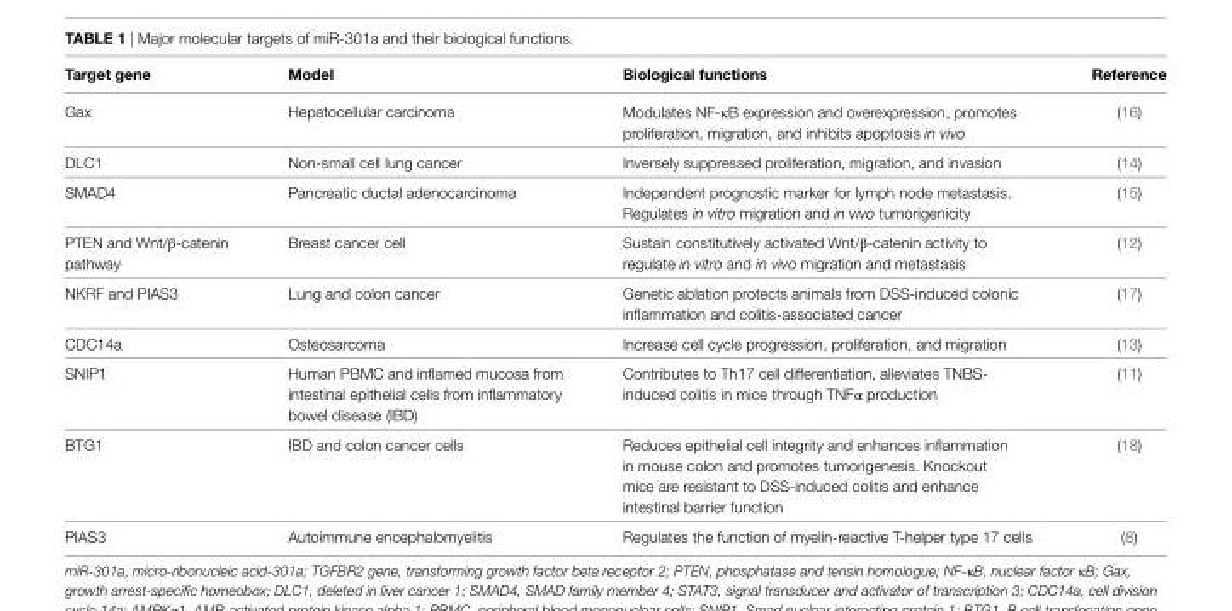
<table><thead><tr><td>Target gene</td><td>Model</td><td>Biological functions</td><td>Reference</td></tr></thead><tbody><tr><td>Gax</td><td>Hepatocellular carcinoma</td><td>Modulates NF-κB expression and overexpression, promotes proliferation, migration, and inhibits apoptosis in vivo</td><td>(16)</td></tr><tr><td>DLC1</td><td>Non-small cell lung cancer</td><td>Inversely suppressed proliferation, migration, and invasion</td><td>(14)</td></tr><tr><td>SMAD4</td><td>Pancreatic ductal adenocarcinoma</td><td>Independent prognostic marker for lymph node metastasis. Regulates in vitro migration and in vivo tumorigenicity</td><td>(15)</td></tr><tr><td>PTEN and Wnt/β-catenin pathway</td><td>Breast cancer cell</td><td>Sustain constitutively activated Wnt/β-catenin activity to regulate in vitro and in vivo migration and metastasis</td><td>(12)</td></tr><tr><td>NKRF and PIAS3</td><td>Lung and colon cancer</td><td>Genetic ablation protects animals from DSS-induced colonic inflammation and colitis-associated cancer</td><td>(17)</td></tr><tr><td>CDC14a</td><td>Osteosarcoma</td><td>Increase cell cycle progression, proliferation, and migration</td><td>(13)</td></tr><tr><td>SNIP1</td><td>Human PBMC and inflamed mucosa from intestinal epithelial cells from inflammatory bowel disease (IBD)</td><td>Contributes to Th17 cell differentiation, alleviates TNBS- induced colitis in mice through TNFα production</td><td>(11)</td></tr><tr><td>BTG1</td><td>IBD and colon cancer cells</td><td>Reduces epithelial cell integrity and enhances inflammation in mouse colon and promotes tumorigenesis. Knockout mice are resistant to DSS-induced colitis and enhance intestinal barrier function</td><td>(18)</td></tr><tr><td>PIAS3</td><td>Autoimmune encephalomyelitis</td><td>Regulates the function of myelin-reactive T-helper type 17 cells</td><td>(8)</td></tr></tbody></table>